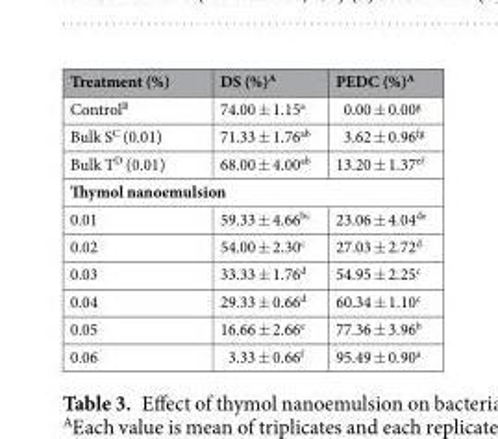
<table><thead><tr><td>Treatment (%)</td><td>DS (%)<sup>A</sup></td><td>PEDC (%)<sup>A</sup></td></tr></thead><tbody><tr><td>Control<sup>B</sup></td><td>74.00 ± 1.15<sup>a</sup></td><td>0.00 ± 0.00<sup>g</sup></td></tr><tr><td>Bulk S<sup>C</sup> (0.01)</td><td>71.33 ± 1.76<sup>ab</sup></td><td>3.62 ± 0.96<sup>fg</sup></td></tr><tr><td>Bulk T<sup>D</sup> (0.01)</td><td>68.00 ± 4.00<sup>ab</sup></td><td>13.20 ± 1.37<sup>ef</sup></td></tr><tr><td colspan="3">Thymol nanoemulsion</td></tr><tr><td>0.01</td><td>59.33 ± 4.66<sup>bc</sup></td><td>23.06 ± 4.04<sup>de</sup></td></tr><tr><td>0.02</td><td>54.00 ± 2.30<sup>c</sup></td><td>27.03 ± 2.72<sup>d</sup></td></tr><tr><td>0.03</td><td>33.33 ± 1.76<sup>d</sup></td><td>54.95 ± 2.25<sup>c</sup></td></tr><tr><td>0.04</td><td>29.33 ± 0.66<sup>d</sup></td><td>60.34 ± 1.10<sup>c</sup></td></tr><tr><td>0.05</td><td>16.66 ± 2.66<sup>e</sup></td><td>77.36 ± 3.96<sup>b</sup></td></tr><tr><td>0.06</td><td>3.33 ± 0.66<sup>f</sup></td><td>95.49 ± 0.90<sup>a</sup></td></tr></tbody></table>